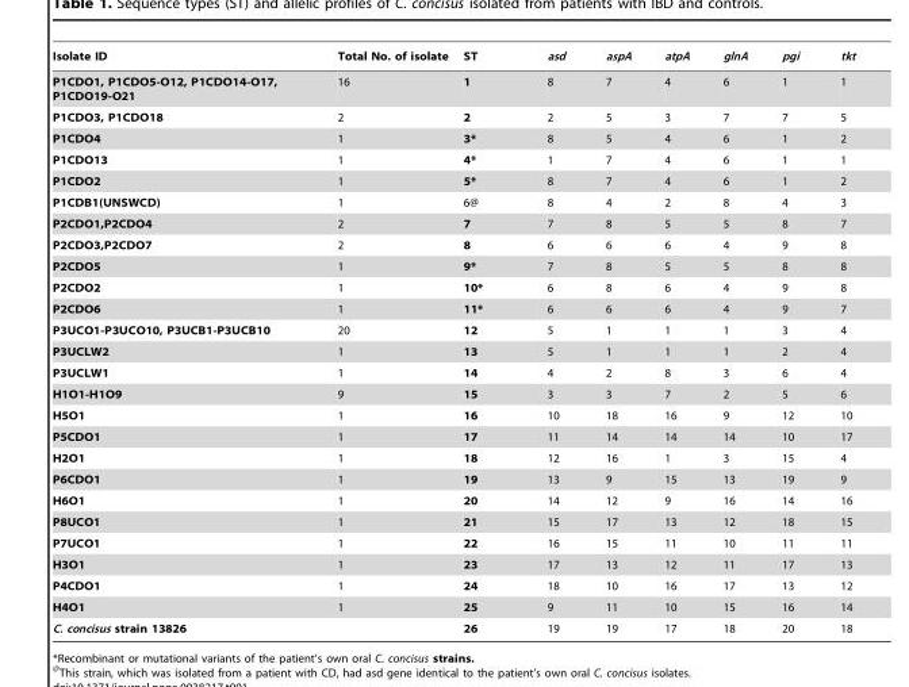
<table><thead><tr><td>Isolate ID</td><td>Total No. of isolate</td><td>ST</td><td>asd</td><td>aspA</td><td>atpA</td><td>glnA</td><td>pgi</td><td>tkt</td></tr></thead><tbody><tr><td>P1CDO1, P1CDO5-O12, P1CDO14-O17, P1CDO19-O21</td><td>16</td><td>1</td><td>8</td><td>7</td><td>4</td><td>6</td><td>1</td><td>1</td></tr><tr><td>P1CDO3, P1CDO18</td><td>2</td><td>2</td><td>2</td><td>5</td><td>3</td><td>7</td><td>7</td><td>5</td></tr><tr><td>P1CDO4</td><td>1</td><td>3*</td><td>8</td><td>5</td><td>4</td><td>6</td><td>1</td><td>2</td></tr><tr><td>P1CDO13</td><td>1</td><td>4*</td><td>1</td><td>7</td><td>4</td><td>6</td><td>1</td><td>1</td></tr><tr><td>P1CDO2</td><td>1</td><td>5*</td><td>8</td><td>7</td><td>4</td><td>6</td><td>1</td><td>2</td></tr><tr><td>P1CDB1(UNSWCD)</td><td>1</td><td>6@</td><td>8</td><td>4</td><td>2</td><td>8</td><td>4</td><td>3</td></tr><tr><td>P2CDO1,P2CDO4</td><td>2</td><td>7</td><td>7</td><td>8</td><td>5</td><td>5</td><td>8</td><td>7</td></tr><tr><td>P2CDO3,P2CDO7</td><td>2</td><td>8</td><td>6</td><td>6</td><td>6</td><td>4</td><td>9</td><td>8</td></tr><tr><td>P2CDO5</td><td>1</td><td>9*</td><td>7</td><td>8</td><td>5</td><td>5</td><td>8</td><td>8</td></tr><tr><td>P2CDO2</td><td>1</td><td>10*</td><td>6</td><td>8</td><td>6</td><td>4</td><td>9</td><td>8</td></tr><tr><td>P2CDO6</td><td>1</td><td>11*</td><td>6</td><td>6</td><td>6</td><td>4</td><td>9</td><td>7</td></tr><tr><td>P3UCO1-P3UCO10, P3UCB1-P3UCB10</td><td>20</td><td>12</td><td>5</td><td>1</td><td>1</td><td>1</td><td>3</td><td>4</td></tr><tr><td>P3UCLW2</td><td>1</td><td>13</td><td>5</td><td>1</td><td>1</td><td>1</td><td>2</td><td>4</td></tr><tr><td>P3UCLW1</td><td>1</td><td>14</td><td>4</td><td>2</td><td>8</td><td>3</td><td>6</td><td>4</td></tr><tr><td>H1O1-H1O9</td><td>9</td><td>15</td><td>3</td><td>3</td><td>7</td><td>2</td><td>5</td><td>6</td></tr><tr><td>H5O1</td><td>1</td><td>16</td><td>10</td><td>18</td><td>16</td><td>9</td><td>12</td><td>10</td></tr><tr><td>P5CDO1</td><td>1</td><td>17</td><td>11</td><td>14</td><td>14</td><td>14</td><td>10</td><td>17</td></tr><tr><td>H2O1</td><td>1</td><td>18</td><td>12</td><td>16</td><td>1</td><td>3</td><td>15</td><td>4</td></tr><tr><td>P6CDO1</td><td>1</td><td>19</td><td>13</td><td>9</td><td>15</td><td>13</td><td>19</td><td>9</td></tr><tr><td>H6O1</td><td>1</td><td>20</td><td>14</td><td>12</td><td>9</td><td>16</td><td>14</td><td>16</td></tr><tr><td>P8UCO1</td><td>1</td><td>21</td><td>15</td><td>17</td><td>13</td><td>12</td><td>18</td><td>15</td></tr><tr><td>P7UCO1</td><td>1</td><td>22</td><td>16</td><td>15</td><td>11</td><td>10</td><td>11</td><td>11</td></tr><tr><td>H3O1</td><td>1</td><td>23</td><td>17</td><td>13</td><td>12</td><td>11</td><td>17</td><td>13</td></tr><tr><td>P4CDO1</td><td>1</td><td>24</td><td>18</td><td>10</td><td>16</td><td>17</td><td>13</td><td>12</td></tr><tr><td>H4O1</td><td>1</td><td>25</td><td>9</td><td>11</td><td>10</td><td>15</td><td>16</td><td>14</td></tr><tr><td>C. concisus strain 13826</td><td></td><td>26</td><td>19</td><td>19</td><td>17</td><td>18</td><td>20</td><td>18</td></tr></tbody></table>